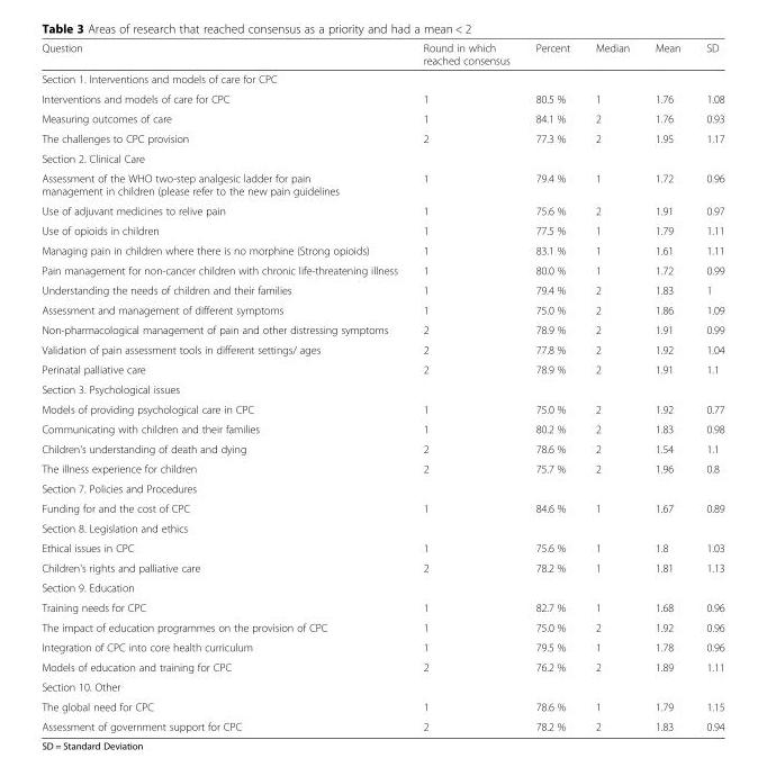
<table><thead><tr><td>Question</td><td>Round in which reached consensus</td><td>Percent</td><td>Median</td><td>Mean</td><td>SD</td></tr></thead><tbody><tr><td colspan="6">Section 1. Interventions and models of care for CPC</td></tr><tr><td>Interventions and models of care for CPC</td><td>1</td><td>80.5 %</td><td>1</td><td>1.76</td><td>1.08</td></tr><tr><td>Measuring outcomes of care</td><td>1</td><td>84.1 %</td><td>2</td><td>1.76</td><td>0.93</td></tr><tr><td>The challenges to CPC provision</td><td>2</td><td>77.3 %</td><td>2</td><td>1.95</td><td>1.17</td></tr><tr><td colspan="6">Section 2. Clinical Care</td></tr><tr><td>Assessment of the WHO two-step analgesic ladder for pain management in children (please refer to the new pain guidelines</td><td>1</td><td>79.4 %</td><td>1</td><td>1.72</td><td>0.96</td></tr><tr><td>Use of adjuvant medicines to relive pain</td><td>1</td><td>75.6 %</td><td>2</td><td>1.91</td><td>0.97</td></tr><tr><td>Use of opioids in children</td><td>1</td><td>77.5 %</td><td>1</td><td>1.79</td><td>1.11</td></tr><tr><td>Managing pain in children where there is no morphine (Strong opioids)</td><td>1</td><td>83.1 %</td><td>1</td><td>1.61</td><td>1.11</td></tr><tr><td>Pain management for non-cancer children with chronic life-threatening illness</td><td>1</td><td>80.0 %</td><td>1</td><td>1.72</td><td>0.99</td></tr><tr><td>Understanding the needs of children and their families</td><td>1</td><td>79.4 %</td><td>2</td><td>1.83</td><td>1</td></tr><tr><td>Assessment and management of different symptoms</td><td>1</td><td>75.0 %</td><td>2</td><td>1.86</td><td>1.09</td></tr><tr><td>Non-pharmacological management of pain and other distressing symptoms</td><td>2</td><td>78.9 %</td><td>2</td><td>1.91</td><td>0.99</td></tr><tr><td>Validation of pain assessment tools in different settings/ ages</td><td>2</td><td>77.8 %</td><td>2</td><td>1.92</td><td>1.04</td></tr><tr><td>Perinatal palliative care</td><td>2</td><td>78.9 %</td><td>2</td><td>1.91</td><td>1.1</td></tr><tr><td colspan="6">Section 3. Psychological issues</td></tr><tr><td>Models of providing psychological care in CPC</td><td>1</td><td>75.0 %</td><td>2</td><td>1.92</td><td>0.77</td></tr><tr><td>Communicating with children and their families</td><td>1</td><td>80.2 %</td><td>2</td><td>1.83</td><td>0.98</td></tr><tr><td>Children&#x27;s understanding of death and dying</td><td>2</td><td>78.6 %</td><td>2</td><td>1.54</td><td>1.1</td></tr><tr><td>The illness experience for children</td><td>2</td><td>75.7 %</td><td>2</td><td>1.96</td><td>0.8</td></tr><tr><td colspan="6">Section 7. Policies and Procedures</td></tr><tr><td>Funding for and the cost of CPC</td><td>1</td><td>84.6 %</td><td>1</td><td>1.67</td><td>0.89</td></tr><tr><td colspan="6">Section 8. Legislation and ethics</td></tr><tr><td>Ethical issues in CPC</td><td>1</td><td>75.6 %</td><td>1</td><td>1.8</td><td>1.03</td></tr><tr><td>Children&#x27;s rights and palliative care</td><td>2</td><td>78.2 %</td><td>1</td><td>1.81</td><td>1.13</td></tr><tr><td colspan="6">Section 9. Education</td></tr><tr><td>Training needs for CPC</td><td>1</td><td>82.7 %</td><td>1</td><td>1.68</td><td>0.96</td></tr><tr><td>The impact of education programmes on the provision of CPC</td><td>1</td><td>75.0 %</td><td>2</td><td>1.92</td><td>0.96</td></tr><tr><td>Integration of CPC into core health curriculum</td><td>1</td><td>79.5 %</td><td>1</td><td>1.78</td><td>0.96</td></tr><tr><td>Models of education and training for CPC</td><td>2</td><td>76.2 %</td><td>2</td><td>1.89</td><td>1.11</td></tr><tr><td colspan="6">Section 10. Other</td></tr><tr><td>The global need for CPC</td><td>1</td><td>78.6 %</td><td>1</td><td>1.79</td><td>1.15</td></tr><tr><td>Assessment of government support for CPC</td><td>2</td><td>78.2 %</td><td>2</td><td>1.83</td><td>0.94</td></tr></tbody></table>